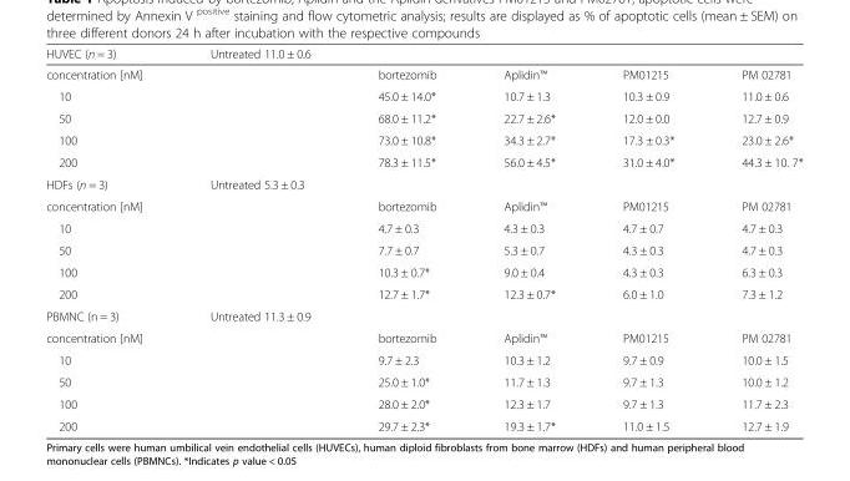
<table><thead><tr><td>HUVEC (n = 3)</td><td>Untreated 11.0 ± 0.6</td><td></td><td></td><td></td><td></td></tr></thead><tbody><tr><td>concentration [nM]</td><td></td><td>bortezomib</td><td>Aplidin™</td><td>PM01215</td><td>PM 02781</td></tr><tr><td>10</td><td></td><td>45.0 ± 14.0*</td><td>10.7 ± 1.3</td><td>10.3 ± 0.9</td><td>11.0 ± 0.6</td></tr><tr><td>50</td><td></td><td>68.0 ± 11.2*</td><td>22.7 ± 2.6*</td><td>12.0 ± 0.0</td><td>12.7 ± 0.9</td></tr><tr><td>100</td><td></td><td>73.0 ± 10.8*</td><td>34.3 ± 2.7*</td><td>17.3 ± 0.3*</td><td>23.0 ± 2.6*</td></tr><tr><td>200</td><td></td><td>78.3 ± 11.5*</td><td>56.0 ± 4.5*</td><td>31.0 ± 4.0*</td><td>44.3 ± 10. 7*</td></tr><tr><td>HDFs (n = 3)</td><td>Untreated 5.3 ± 0.3</td><td></td><td></td><td></td><td></td></tr><tr><td>concentration [nM]</td><td></td><td>bortezomib</td><td>Aplidin™</td><td>PM01215</td><td>PM 02781</td></tr><tr><td>10</td><td></td><td>4.7 ± 0.3</td><td>4.3 ± 0.3</td><td>4.7 ± 0.7</td><td>4.7 ± 0.3</td></tr><tr><td>50</td><td></td><td>7.7 ± 0.7</td><td>5.3 ± 0.7</td><td>4.3 ± 0.3</td><td>4.7 ± 0.3</td></tr><tr><td>100</td><td></td><td>10.3 ± 0.7*</td><td>9.0 ± 0.4</td><td>4.3 ± 0.3</td><td>6.3 ± 0.3</td></tr><tr><td>200</td><td></td><td>12.7 ± 1.7*</td><td>12.3 ± 0.7*</td><td>6.0 ± 1.0</td><td>7.3 ± 1.2</td></tr><tr><td>PBMNC (n = 3)</td><td>Untreated 11.3 ± 0.9</td><td></td><td></td><td></td><td></td></tr><tr><td>concentration [nM]</td><td></td><td>bortezomib</td><td>Aplidin™</td><td>PM01215</td><td>PM 02781</td></tr><tr><td>10</td><td></td><td>9.7 ± 2.3</td><td>10.3 ± 1.2</td><td>9.7 ± 0.9</td><td>10.0 ± 1.5</td></tr><tr><td>50</td><td></td><td>25.0 ± 1.0*</td><td>11.7 ± 1.3</td><td>9.7 ± 1.3</td><td>10.0 ± 1.2</td></tr><tr><td>100</td><td></td><td>28.0 ± 2.0*</td><td>12.3 ± 1.7</td><td>9.7 ± 1.3</td><td>11.7 ± 2.3</td></tr><tr><td>200</td><td></td><td>29.7 ± 2.3*</td><td>19.3 ± 1.7*</td><td>11.0 ± 1.5</td><td>12.7 ± 1.9</td></tr></tbody></table>